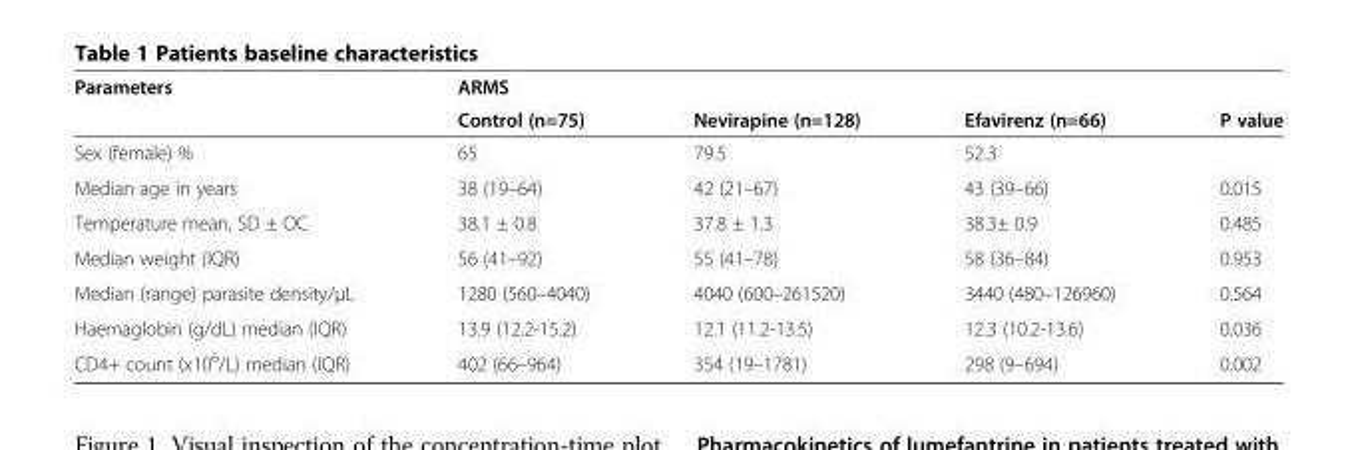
<table><thead><tr><td rowspan="2">Parameters</td><td rowspan="2">ARMS Control (n=75)</td><td rowspan="2">Nevirapine (n=128)</td><td rowspan="2">Efavirenz (n=66)</td><td rowspan="2">P value</td></tr><tr></tr></thead><tbody><tr><td>Sex (female) %</td><td>65</td><td>79.5</td><td>52.3</td><td></td></tr><tr><td>Median age in years</td><td>38 (19–64)</td><td>42 (21–67)</td><td>43 (39–66)</td><td>0.015</td></tr><tr><td>Temperature mean, SD ± OC</td><td>38.1 ± 0.8</td><td>37.8 ± 1.3</td><td>38.3± 0.9</td><td>0.485</td></tr><tr><td>Median weight (IQR)</td><td>56 (41–92)</td><td>55 (41–78)</td><td>58 (36–84)</td><td>0.953</td></tr><tr><td>Median (range) parasite density/μL</td><td>1280 (560–4040)</td><td>4040 (600–261520)</td><td>3440 (480–126960)</td><td>0.564</td></tr><tr><td>Haemaglobin (g/dL) median (IQR)</td><td>13.9 (12.2-15.2)</td><td>12.1 (11.2-13.5)</td><td>12.3 (10.2-13.6)</td><td>0.036</td></tr><tr><td>CD4+ count (x10<sup>6</sup>/L) median (IQR)</td><td>402 (66–964)</td><td>354 (19–1781)</td><td>298 (9–694)</td><td>0.002</td></tr></tbody></table>